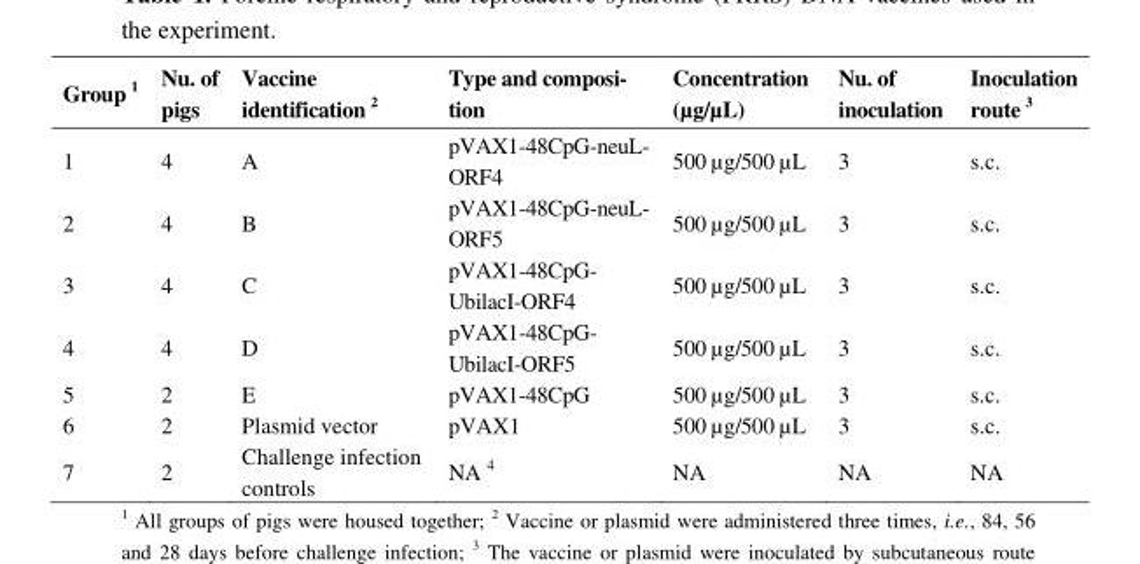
<table><thead><tr><td>Group <sup>1</sup></td><td>Nu. of pigs</td><td>Vaccine identification <sup>2</sup></td><td>Type and composi- tion</td><td>Concentration (µg/µL)</td><td>Nu. of inoculation</td><td>Inoculation route <sup>3</sup></td></tr></thead><tbody><tr><td>1</td><td>4</td><td>A</td><td>pVAX1-48CpG-neuL- ORF4</td><td>500 µg/500 µL</td><td>3</td><td>s.c.</td></tr><tr><td>2</td><td>4</td><td>B</td><td>pVAX1-48CpG-neuL- ORF5</td><td>500 µg/500 µL</td><td>3</td><td>s.c.</td></tr><tr><td>3</td><td>4</td><td>C</td><td>pVAX1-48CpG- UbilacI-ORF4</td><td>500 µg/500 µL</td><td>3</td><td>s.c.</td></tr><tr><td>4</td><td>4</td><td>D</td><td>pVAX1-48CpG- UbilacI-ORF5</td><td>500 µg/500 µL</td><td>3</td><td>s.c.</td></tr><tr><td>5</td><td>2</td><td>E</td><td>pVAX1-48CpG</td><td>500 µg/500 µL</td><td>3</td><td>s.c.</td></tr><tr><td>6</td><td>2</td><td>Plasmid vector</td><td>pVAX1</td><td>500 µg/500 µL</td><td>3</td><td>s.c.</td></tr><tr><td>7</td><td>2</td><td>Challenge infection controls</td><td>NA <sup>4</sup></td><td>NA</td><td>NA</td><td>NA</td></tr></tbody></table>